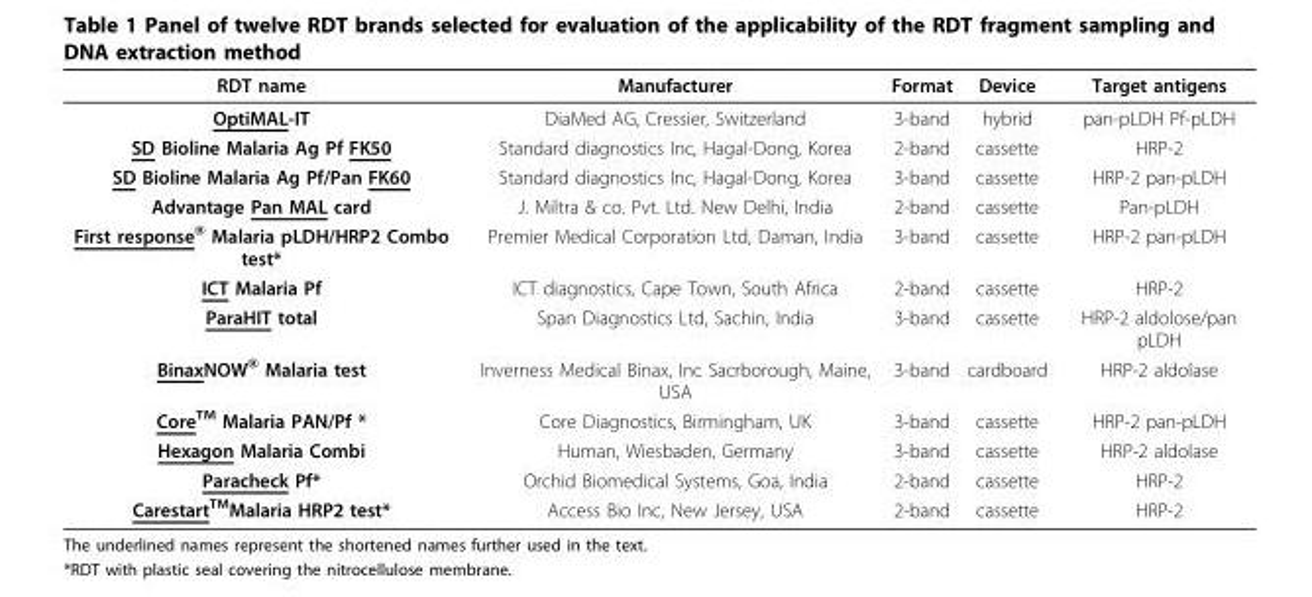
<table><thead><tr><td>RDT name</td><td>Manufacturer</td><td>Format</td><td>Device</td><td>Target antigens</td></tr></thead><tbody><tr><td>OptiMAL-IT</td><td>DiaMed AG, Cressier, Switzerland</td><td>3-band</td><td>hybrid</td><td>pan-pLDH Pf-pLDH</td></tr><tr><td>SD Bioline Malaria Ag Pf FK50</td><td>Standard diagnostics Inc, Hagal-Dong, Korea</td><td>2-band</td><td>cassette</td><td>HRP-2</td></tr><tr><td>SD Bioline Malaria Ag Pf/Pan FK60</td><td>Standard diagnostics Inc, Hagal-Dong, Korea</td><td>3-band</td><td>cassette</td><td>HRP-2 pan-pLDH</td></tr><tr><td>Advantage Pan MAL card</td><td>J. Miltra &amp; co. Pvt. Ltd. New Delhi, India</td><td>2-band</td><td>cassette</td><td>Pan-pLDH</td></tr><tr><td>First response<sup>®</sup> Malaria pLDH/HRP2 Combo test*</td><td>Premier Medical Corporation Ltd, Daman, India</td><td>3-band</td><td>cassette</td><td>HRP-2 pan-pLDH</td></tr><tr><td>ICT Malaria Pf</td><td>ICT diagnostics, Cape Town, South Africa</td><td>2-band</td><td>cassette</td><td>HRP-2</td></tr><tr><td>ParaHIT total</td><td>Span Diagnostics Ltd, Sachin, India</td><td>3-band</td><td>cassette</td><td>HRP-2 aldolose/pan pLDH</td></tr><tr><td>BinaxNOW<sup>®</sup> Malaria test</td><td>Inverness Medical Binax, Inc Sacrborough, Maine, USA</td><td>3-band</td><td>cardboard</td><td>HRP-2 aldolase</td></tr><tr><td>Core<sup>TM</sup> Malaria PAN/Pf *</td><td>Core Diagnostics, Birmingham, UK</td><td>3-band</td><td>cassette</td><td>HRP-2 pan-pLDH</td></tr><tr><td>Hexagon Malaria Combi</td><td>Human, Wiesbaden, Germany</td><td>3-band</td><td>cassette</td><td>HRP-2 aldolase</td></tr><tr><td>Paracheck Pf*</td><td>Orchid Biomedical Systems, Goa, India</td><td>2-band</td><td>cassette</td><td>HRP-2</td></tr><tr><td>Carestart<sup>TM</sup>Malaria HRP2 test*</td><td>Access Bio Inc, New Jersey, USA</td><td>2-band</td><td>cassette</td><td>HRP-2</td></tr></tbody></table>